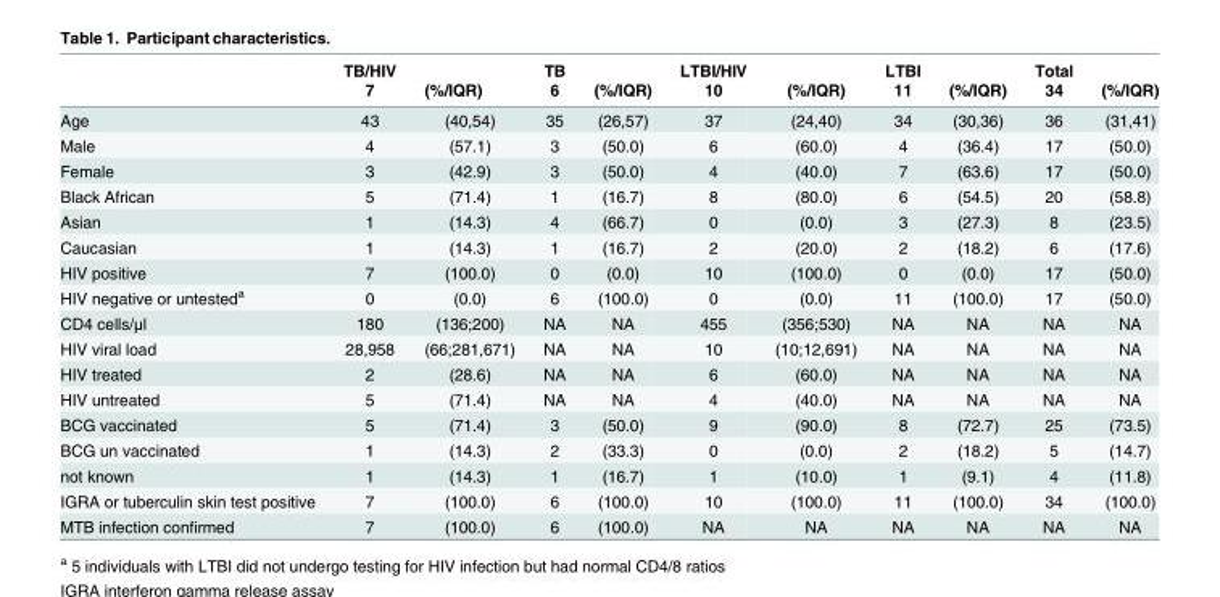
<table><thead><tr><td rowspan="2"></td><td rowspan="2">TB/HIV 7</td><td rowspan="2">(%/IQR)</td><td rowspan="2">TB 6</td><td rowspan="2">(%/IQR)</td><td rowspan="2">LTBI/HIV 10</td><td rowspan="2">(%/IQR)</td><td rowspan="2">LTBI 11</td><td rowspan="2">(%/IQR)</td><td rowspan="2">Total 34</td><td rowspan="2">(%/IQR)</td></tr><tr></tr></thead><tbody><tr><td>Age</td><td>43</td><td>(40,54)</td><td>35</td><td>(26,57)</td><td>37</td><td>(24,40)</td><td>34</td><td>(30,36)</td><td>36</td><td>(31,41)</td></tr><tr><td>Male</td><td>4</td><td>(57.1)</td><td>3</td><td>(50.0)</td><td>6</td><td>(60.0)</td><td>4</td><td>(36.4)</td><td>17</td><td>(50.0)</td></tr><tr><td>Female</td><td>3</td><td>(42.9)</td><td>3</td><td>(50.0)</td><td>4</td><td>(40.0)</td><td>7</td><td>(63.6)</td><td>17</td><td>(50.0)</td></tr><tr><td>Black African</td><td>5</td><td>(71.4)</td><td>1</td><td>(16.7)</td><td>8</td><td>(80.0)</td><td>6</td><td>(54.5)</td><td>20</td><td>(58.8)</td></tr><tr><td>Asian</td><td>1</td><td>(14.3)</td><td>4</td><td>(66.7)</td><td>0</td><td>(0.0)</td><td>3</td><td>(27.3)</td><td>8</td><td>(23.5)</td></tr><tr><td>Caucasian</td><td>1</td><td>(14.3)</td><td>1</td><td>(16.7)</td><td>2</td><td>(20.0)</td><td>2</td><td>(18.2)</td><td>6</td><td>(17.6)</td></tr><tr><td>HIV positive</td><td>7</td><td>(100.0)</td><td>0</td><td>(0.0)</td><td>10</td><td>(100.0)</td><td>0</td><td>(0.0)</td><td>17</td><td>(50.0)</td></tr><tr><td>HIV negative or untested<sup>a</sup></td><td>0</td><td>(0.0)</td><td>6</td><td>(100.0)</td><td>0</td><td>(0.0)</td><td>11</td><td>(100.0)</td><td>17</td><td>(50.0)</td></tr><tr><td>CD4 cells/μl</td><td>180</td><td>(136;200)</td><td>NA</td><td>NA</td><td>455</td><td>(356;530)</td><td>NA</td><td>NA</td><td>NA</td><td>NA</td></tr><tr><td>HIV viral load</td><td>28,958</td><td>(66;281,671)</td><td>NA</td><td>NA</td><td>10</td><td>(10;12,691)</td><td>NA</td><td>NA</td><td>NA</td><td>NA</td></tr><tr><td>HIV treated</td><td>2</td><td>(28.6)</td><td>NA</td><td>NA</td><td>6</td><td>(60.0)</td><td>NA</td><td>NA</td><td>NA</td><td>NA</td></tr><tr><td>HIV untreated</td><td>5</td><td>(71.4)</td><td>NA</td><td>NA</td><td>4</td><td>(40.0)</td><td>NA</td><td>NA</td><td>NA</td><td>NA</td></tr><tr><td>BCG vaccinated</td><td>5</td><td>(71.4)</td><td>3</td><td>(50.0)</td><td>9</td><td>(90.0)</td><td>8</td><td>(72.7)</td><td>25</td><td>(73.5)</td></tr><tr><td>BCG un vaccinated</td><td>1</td><td>(14.3)</td><td>2</td><td>(33.3)</td><td>0</td><td>(0.0)</td><td>2</td><td>(18.2)</td><td>5</td><td>(14.7)</td></tr><tr><td>not known</td><td>1</td><td>(14.3)</td><td>1</td><td>(16.7)</td><td>1</td><td>(10.0)</td><td>1</td><td>(9.1)</td><td>4</td><td>(11.8)</td></tr><tr><td>IGRA or tuberculin skin test positive</td><td>7</td><td>(100.0)</td><td>6</td><td>(100.0)</td><td>10</td><td>(100.0)</td><td>11</td><td>(100.0)</td><td>34</td><td>(100.0)</td></tr><tr><td>MTB infection confirmed</td><td>7</td><td>(100.0)</td><td>6</td><td>(100.0)</td><td>NA</td><td>NA</td><td>NA</td><td>NA</td><td>NA</td><td>NA</td></tr></tbody></table>